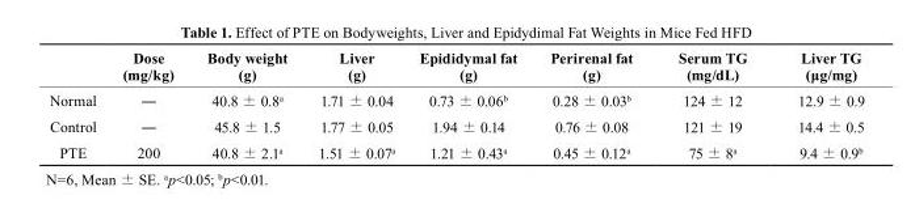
<table><thead><tr><td></td><td>Dose (mg/kg)</td><td>body weight (g)</td><td>Liver (g)</td><td>Epididymal fat (g)</td><td>Perirenal fat (g)</td><td>serum tG (mg/dL)</td><td>Liver TG (μg/mg)</td></tr></thead><tbody><tr><td>Normal</td><td>―</td><td>40.8 ± 0.8<sup>a</sup></td><td>1.71 ± 0.04</td><td>0.73 ± 0.06<sup>b</sup></td><td>0.28 ± 0.03<sup>b</sup></td><td>124 ± 12</td><td>12.9 ± 0.9</td></tr><tr><td>Control</td><td>―</td><td>45.8 ± 1.5</td><td>1.77 ± 0.05</td><td>1.94 ± 0.14</td><td>0.76 ± 0.08</td><td>121 ± 19</td><td>14.4 ± 0.5</td></tr><tr><td>PTE</td><td>200</td><td>40.8 ± 2.1<sup>a</sup></td><td>1.51 ± 0.07<sup>a</sup></td><td>1.21 ± 0.43<sup>a</sup></td><td>0.45 ± 0.12<sup>a</sup></td><td>75 ± 8<sup>a</sup></td><td>9.4 ± 0.9b</td></tr></tbody></table>